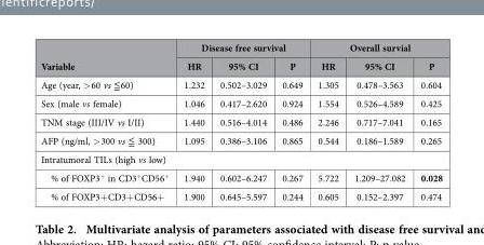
<table><thead><tr><td rowspan="2">Variable</td><td colspan="3">Disease free survival</td><td colspan="3">Overall survial</td></tr><tr><td>HR</td><td>95% CI</td><td>P</td><td>HR</td><td>95% CI</td><td>P</td></tr></thead><tbody><tr><td>Age (year, &gt; 60 vs ≦ 60)</td><td>1.232</td><td>0.502–3.029</td><td>0.649</td><td>1.305</td><td>0.478–3.563</td><td>0.604</td></tr><tr><td>Sex (male vs female)</td><td>1.046</td><td>0.417–2.620</td><td>0.924</td><td>1.554</td><td>0.526–4.589</td><td>0.425</td></tr><tr><td>TNM stage (III/IV vs I/II)</td><td>1.440</td><td>0.516–4.014</td><td>0.486</td><td>2.246</td><td>0.717–7.041</td><td>0.165</td></tr><tr><td>AFP (ng/ml, &gt; 300 vs ≦ 300)</td><td>1.095</td><td>0.386–3.106</td><td>0.865</td><td>0.544</td><td>0.186–1.589</td><td>0.265</td></tr><tr><td colspan="7">Intratumoral TILs (high vs low)</td></tr><tr><td>% of FOXP3<sup>+</sup> in CD3<sup>+</sup>CD56<sup>+</sup></td><td>1.940</td><td>0.602–6.247</td><td>0.267</td><td>5.722</td><td>1.209–27.082</td><td>0.028</td></tr><tr><td>% of FOXP3+ CD3+ CD56+</td><td>1.900</td><td>0.645–5.597</td><td>0.244</td><td>0.605</td><td>0.152–2.397</td><td>0.474</td></tr></tbody></table>